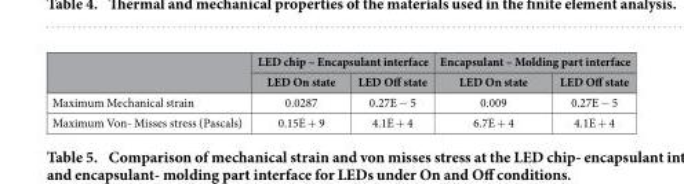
<table><thead><tr><td rowspan="2"></td><td colspan="2">LED chip – Encapsulant interface</td><td colspan="2">Encapsulant – Molding part interface</td></tr><tr><td>LED On state</td><td>LED Off state</td><td>LED On state</td><td>LED Off state</td></tr></thead><tbody><tr><td>Maximum Mechanical strain</td><td>0.0287</td><td>0.27E − 5</td><td>0.009</td><td>0.27E − 5</td></tr><tr><td>Maximum Von- Misses stress (Pascals)</td><td>0.15E + 9</td><td>4.1E + 4</td><td>6.7E + 4</td><td>4.1E + 4</td></tr></tbody></table>